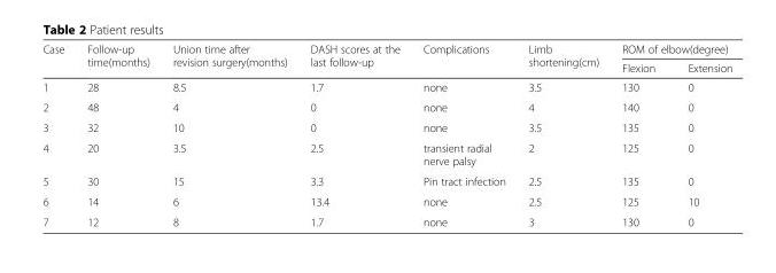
<table><thead><tr><td rowspan="2">Case</td><td rowspan="2">Follow-up time(months)</td><td rowspan="2">Union time after revision surgery(months)</td><td rowspan="2">DASH scores at the last follow-up</td><td rowspan="2">Complications</td><td rowspan="2">Limb shortening(cm)</td><td colspan="2">ROM of elbow(degree)</td></tr><tr><td>Flexion</td><td>Extension</td></tr></thead><tbody><tr><td>1</td><td>28</td><td>8.5</td><td>1.7</td><td>none</td><td>3.5</td><td>130</td><td>0</td></tr><tr><td>2</td><td>48</td><td>4</td><td>0</td><td>none</td><td>4</td><td>140</td><td>0</td></tr><tr><td>3</td><td>32</td><td>10</td><td>0</td><td>none</td><td>3.5</td><td>135</td><td>0</td></tr><tr><td>4</td><td>20</td><td>3.5</td><td>2.5</td><td>transient radial nerve palsy</td><td>2</td><td>125</td><td>0</td></tr><tr><td>5</td><td>30</td><td>15</td><td>3.3</td><td>Pin tract infection</td><td>2.5</td><td>135</td><td>0</td></tr><tr><td>6</td><td>14</td><td>6</td><td>13.4</td><td>none</td><td>2.5</td><td>125</td><td>10</td></tr><tr><td>7</td><td>12</td><td>8</td><td>1.7</td><td>none</td><td>3</td><td>130</td><td>0</td></tr></tbody></table>